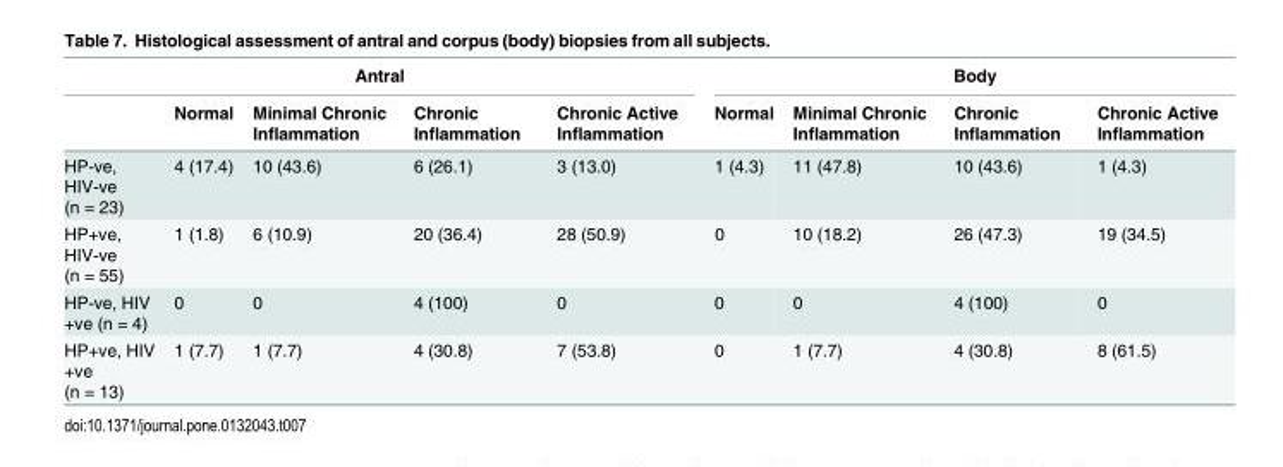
<table><thead><tr><td colspan="5">Antral</td><td colspan="4">Body</td></tr><tr><td></td><td>Normal</td><td>Minimal Chronic Inflammation</td><td>Chronic Inflammation</td><td>Chronic Active Inflammation</td><td>Normal</td><td>Minimal Chronic Inflammation</td><td>Chronic Inflammation</td><td>Chronic Active Inflammation</td></tr></thead><tbody><tr><td>HP-ve, HIV-ve (n = 23)</td><td>4 (17.4)</td><td>10 (43.6)</td><td>6 (26.1)</td><td>3 (13.0)</td><td>1 (4.3)</td><td>11 (47.8)</td><td>10 (43.6)</td><td>1 (4.3)</td></tr><tr><td>HP+ve, HIV-ve (n = 55)</td><td>1 (1.8)</td><td>6 (10.9)</td><td>20 (36.4)</td><td>28 (50.9)</td><td>0</td><td>10 (18.2)</td><td>26 (47.3)</td><td>19 (34.5)</td></tr><tr><td>HP-ve, HIV +ve (n = 4)</td><td>0</td><td>0</td><td>4 (100)</td><td>0</td><td>0</td><td>0</td><td>4 (100)</td><td>0</td></tr><tr><td>HP+ve, HIV +ve (n = 13)</td><td>1 (7.7)</td><td>1 (7.7)</td><td>4 (30.8)</td><td>7 (53.8)</td><td>0</td><td>1 (7.7)</td><td>4 (30.8)</td><td>8 (61.5)</td></tr></tbody></table>